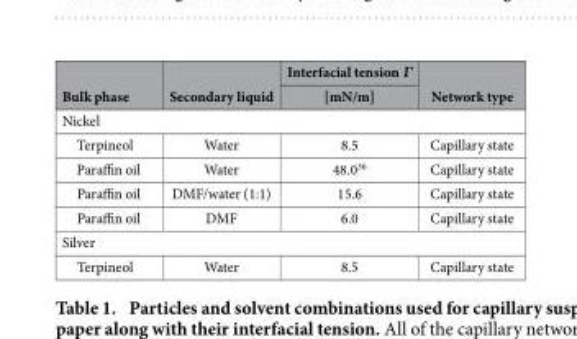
<table><thead><tr><td rowspan="2">Bulk phase</td><td rowspan="2">Secondary liquid</td><td rowspan="2">Interfacial tension Γ [mN/m]</td><td rowspan="2">Network type</td></tr><tr></tr></thead><tbody><tr><td colspan="4">Nickel</td></tr><tr><td>Terpineol</td><td>Water</td><td>8.5</td><td>Capillary state</td></tr><tr><td>Paraffin oil</td><td>Water</td><td>48.0<sup>36</sup></td><td>Capillary state</td></tr><tr><td>Paraffin oil</td><td>DMF/water (1:1)</td><td>15.6</td><td>Capillary state</td></tr><tr><td>Paraffin oil</td><td>DMF</td><td>6.0</td><td>Capillary state</td></tr><tr><td colspan="4">Silver</td></tr><tr><td>Terpineol</td><td>Water</td><td>8.5</td><td>Capillary state</td></tr></tbody></table>